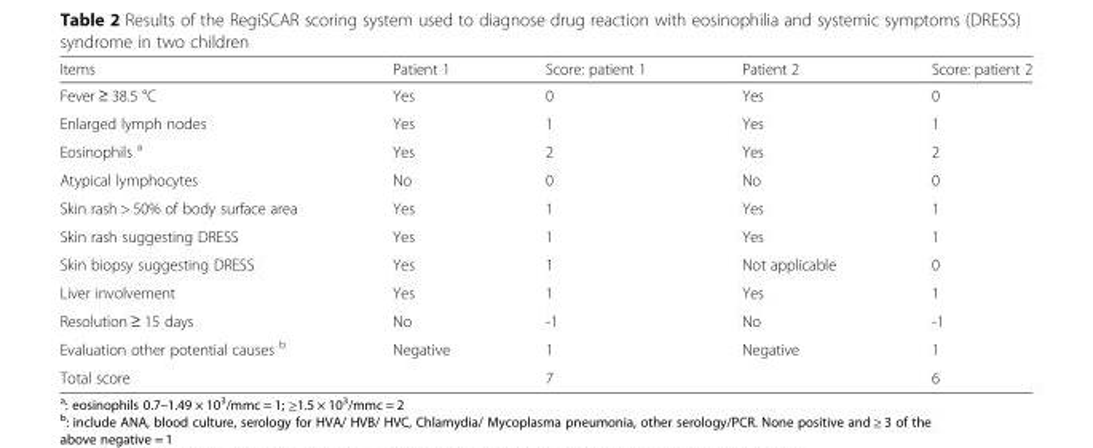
<table><thead><tr><td>Items</td><td>Patient 1</td><td>Score: patient 1</td><td>Patient 2</td><td>Score: patient 2</td></tr></thead><tbody><tr><td>Fever ≥ 38.5 °C</td><td>Yes</td><td>0</td><td>Yes</td><td>0</td></tr><tr><td>Enlarged lymph nodes</td><td>Yes</td><td>1</td><td>Yes</td><td>1</td></tr><tr><td>Eosinophils <sup>a</sup></td><td>Yes</td><td>2</td><td>Yes</td><td>2</td></tr><tr><td>Atypical lymphocytes</td><td>No</td><td>0</td><td>No</td><td>0</td></tr><tr><td>Skin rash &gt; 50% of body surface area</td><td>Yes</td><td>1</td><td>Yes</td><td>1</td></tr><tr><td>Skin rash suggesting DRESS</td><td>Yes</td><td>1</td><td>Yes</td><td>1</td></tr><tr><td>Skin biopsy suggesting DRESS</td><td>Yes</td><td>1</td><td>Not applicable</td><td>0</td></tr><tr><td>Liver involvement</td><td>Yes</td><td>1</td><td>Yes</td><td>1</td></tr><tr><td>Resolution ≥ 15 days</td><td>No</td><td>-1</td><td>No</td><td>-1</td></tr><tr><td>Evaluation other potential causes <sup>b</sup></td><td>Negative</td><td>1</td><td>Negative</td><td>1</td></tr><tr><td>Total score</td><td></td><td>7</td><td></td><td>6</td></tr></tbody></table>